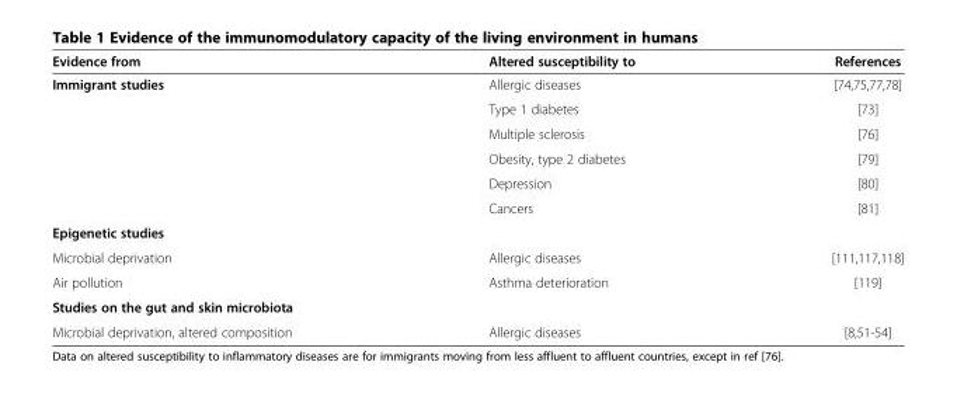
<table><thead><tr><td>Evidence from</td><td>Altered susceptibility to</td><td>References</td></tr></thead><tbody><tr><td rowspan="6">Immigrant studies</td><td>Allergic diseases</td><td>[74,75,77,78]</td></tr><tr><td>Type 1 diabetes</td><td>[73]</td></tr><tr><td>Multiple sclerosis</td><td>[76]</td></tr><tr><td>Obesity, type 2 diabetes</td><td>[79]</td></tr><tr><td>Depression</td><td>[80]</td></tr><tr><td>Cancers</td><td>[81]</td></tr><tr><td colspan="3">Epigenetic studies</td></tr><tr><td>Microbial deprivation</td><td>Allergic diseases</td><td>[111,117,118]</td></tr><tr><td>Air pollution</td><td>Asthma deterioration</td><td>[119]</td></tr><tr><td colspan="3">Studies on the gut and skin microbiota</td></tr><tr><td>Microbial deprivation, altered composition</td><td>Allergic diseases</td><td>[8,51-54]</td></tr></tbody></table>